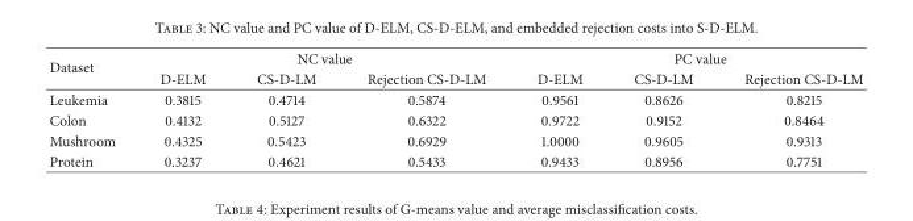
<table><thead><tr><td rowspan="2">Dataset</td><td colspan="3">NC value</td><td colspan="3">PC value</td></tr><tr><td>D-ELM</td><td>CS-D-LM</td><td>Rejection CS-D-LM</td><td>D-ELM</td><td>CS-D-LM</td><td>Rejection CS-D-LM</td></tr></thead><tbody><tr><td>Leukemia</td><td>0.3815</td><td>0.4714</td><td>0.5874</td><td>0.9561</td><td>0.8626</td><td>0.8215</td></tr><tr><td>Colon</td><td>0.4132</td><td>0.5127</td><td>0.6322</td><td>0.9722</td><td>0.9152</td><td>0.8464</td></tr><tr><td>Mushroom</td><td>0.4325</td><td>0.5423</td><td>0.6929</td><td>1.0000</td><td>0.9605</td><td>0.9313</td></tr><tr><td>Protein</td><td>0.3237</td><td>0.4621</td><td>0.5433</td><td>0.9433</td><td>0.8956</td><td>0.7751</td></tr></tbody></table>